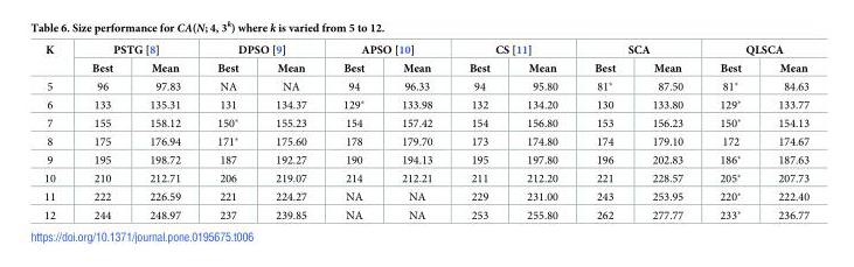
<table><thead><tr><td rowspan="2">K</td><td colspan="2">PSTG [8]</td><td colspan="2">DPSO [9]</td><td colspan="2">APSO [10]</td><td colspan="2">CS [11]</td><td colspan="2">SCA</td><td colspan="2">QLSCA</td></tr><tr><td>Best</td><td>Mean</td><td>Best</td><td>Mean</td><td>Best</td><td>Mean</td><td>Best</td><td>Mean</td><td>Best</td><td>Mean</td><td>Best</td><td>Mean</td></tr></thead><tbody><tr><td>5</td><td>96</td><td>97.83</td><td>NA</td><td>NA</td><td>94</td><td>96.33</td><td>94</td><td>95.80</td><td>81*</td><td>87.50</td><td>81*</td><td>84.63</td></tr><tr><td>6</td><td>133</td><td>135.31</td><td>131</td><td>134.37</td><td>129*</td><td>133.98</td><td>132</td><td>134.20</td><td>130</td><td>133.80</td><td>129*</td><td>133.77</td></tr><tr><td>7</td><td>155</td><td>158.12</td><td>150*</td><td>155.23</td><td>154</td><td>157.42</td><td>154</td><td>156.80</td><td>153</td><td>156.23</td><td>150*</td><td>154.13</td></tr><tr><td>8</td><td>175</td><td>176.94</td><td>171*</td><td>175.60</td><td>178</td><td>179.70</td><td>173</td><td>174.80</td><td>174</td><td>179.10</td><td>172</td><td>174.67</td></tr><tr><td>9</td><td>195</td><td>198.72</td><td>187</td><td>192.27</td><td>190</td><td>194.13</td><td>195</td><td>197.80</td><td>196</td><td>202.83</td><td>186*</td><td>187.63</td></tr><tr><td>10</td><td>210</td><td>212.71</td><td>206</td><td>219.07</td><td>214</td><td>212.21</td><td>211</td><td>212.20</td><td>221</td><td>228.57</td><td>205*</td><td>207.73</td></tr><tr><td>11</td><td>222</td><td>226.59</td><td>221</td><td>224.27</td><td>NA</td><td>NA</td><td>229</td><td>231.00</td><td>243</td><td>253.95</td><td>220*</td><td>222.40</td></tr><tr><td>12</td><td>244</td><td>248.97</td><td>237</td><td>239.85</td><td>NA</td><td>NA</td><td>253</td><td>255.80</td><td>262</td><td>277.77</td><td>233*</td><td>236.77</td></tr></tbody></table>